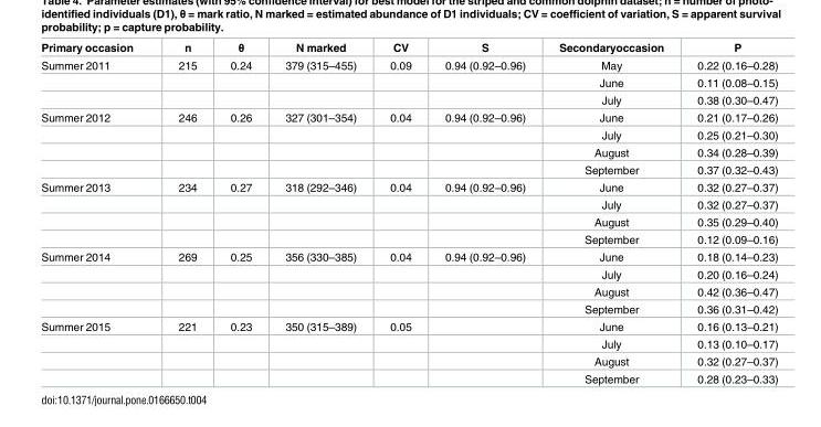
<table><thead><tr><td>Primary occasion</td><td>n</td><td>θ</td><td>N marked</td><td>CV</td><td>S</td><td>Secondaryoccasion</td><td>P</td></tr></thead><tbody><tr><td rowspan="3">Summer 2011</td><td>215</td><td>0.24</td><td>379 (315–455)</td><td>0.09</td><td>0.94 (0.92–0.96)</td><td>May</td><td>0.22 (0.16–0.28)</td></tr><tr><td></td><td></td><td></td><td></td><td></td><td>June</td><td>0.11 (0.08–0.15)</td></tr><tr><td></td><td></td><td></td><td></td><td></td><td>July</td><td>0.38 (0.30–0.47)</td></tr><tr><td rowspan="4">Summer 2012</td><td>246</td><td>0.26</td><td>327 (301–354)</td><td>0.04</td><td>0.94 (0.92–0.96)</td><td>June</td><td>0.21 (0.17–0.26)</td></tr><tr><td></td><td></td><td></td><td></td><td></td><td>July</td><td>0.25 (0.21–0.30)</td></tr><tr><td></td><td></td><td></td><td></td><td></td><td>August</td><td>0.34 (0.28–0.39)</td></tr><tr><td></td><td></td><td></td><td></td><td></td><td>September</td><td>0.37 (0.32–0.43)</td></tr><tr><td rowspan="4">Summer 2013</td><td>234</td><td>0.27</td><td>318 (292–346)</td><td>0.04</td><td>0.94 (0.92–0.96)</td><td>June</td><td>0.32 (0.27–0.37)</td></tr><tr><td></td><td></td><td></td><td></td><td></td><td>July</td><td>0.32 (0.27–0.37)</td></tr><tr><td></td><td></td><td></td><td></td><td></td><td>August</td><td>0.35 (0.29–0.40)</td></tr><tr><td></td><td></td><td></td><td></td><td></td><td>September</td><td>0.12 (0.09–0.16)</td></tr><tr><td rowspan="4">Summer 2014</td><td>269</td><td>0.25</td><td>356 (330–385)</td><td>0.04</td><td>0.94 (0.92–0.96)</td><td>June</td><td>0.18 (0.14–0.23)</td></tr><tr><td></td><td></td><td></td><td></td><td></td><td>July</td><td>0.20 (0.16–0.24)</td></tr><tr><td></td><td></td><td></td><td></td><td></td><td>August</td><td>0.42 (0.36–0.47)</td></tr><tr><td></td><td></td><td></td><td></td><td></td><td>September</td><td>0.36 (0.31–0.42)</td></tr><tr><td rowspan="4">Summer 2015</td><td>221</td><td>0.23</td><td>350 (315–389)</td><td>0.05</td><td></td><td>June</td><td>0.16 (0.13–0.21)</td></tr><tr><td></td><td></td><td></td><td></td><td></td><td>July</td><td>0.13 (0.10–0.17)</td></tr><tr><td></td><td></td><td></td><td></td><td></td><td>August</td><td>0.32 (0.27–0.37)</td></tr><tr><td></td><td></td><td></td><td></td><td></td><td>September</td><td>0.28 (0.23–0.33)</td></tr></tbody></table>